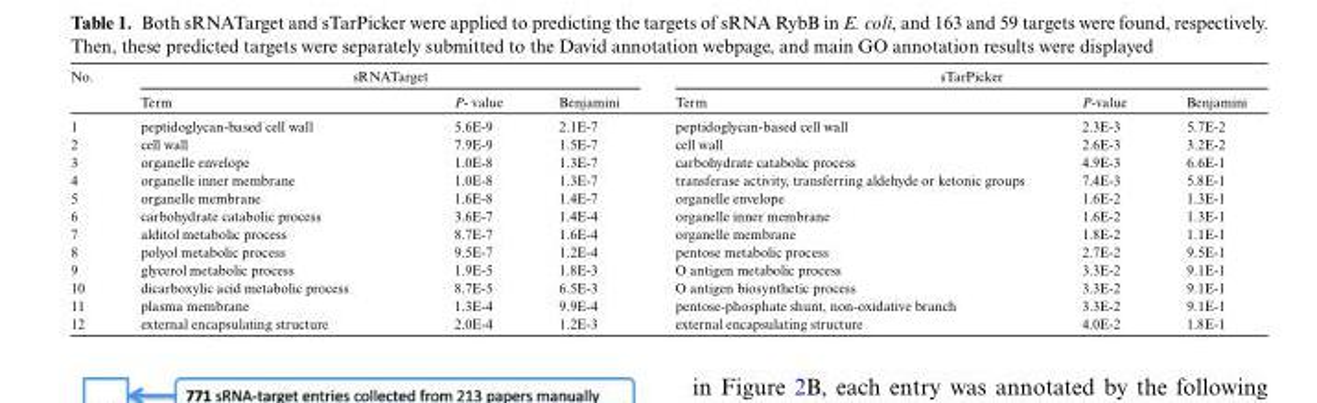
<table><thead><tr><td rowspan="2">No.</td><td colspan="3">sRNATarget</td><td colspan="3">sTarPicker</td></tr><tr><td>Term</td><td>P- value</td><td>Benjamini</td><td>Term</td><td>P-value</td><td>Benjamini</td></tr></thead><tbody><tr><td>1</td><td>peptidoglycan-based cell wall</td><td>5.6E-9</td><td>2.1E-7</td><td>peptidoglycan-based cell wall</td><td>2.3E-3</td><td>5.7E-2</td></tr><tr><td>2</td><td>cell wall</td><td>7.9E-9</td><td>1.5E-7</td><td>cell wall</td><td>2.6E-3</td><td>3.2E-2</td></tr><tr><td>3</td><td>organelle envelope</td><td>1.0E-8</td><td>1.3E-7</td><td>carbohydrate catabolic process</td><td>4.9E-3</td><td>6.6E-1</td></tr><tr><td>4</td><td>organelle inner membrane</td><td>1.0E-8</td><td>1.3E-7</td><td>transferase activity, transferring aldehyde or ketonic groups</td><td>7.4E-3</td><td>5.8E-1</td></tr><tr><td>5</td><td>organelle membrane</td><td>1.6E-8</td><td>1.4E-7</td><td>organelle envelope</td><td>1.6E-2</td><td>1.3E-1</td></tr><tr><td>6</td><td>carbohydrate catabolic process</td><td>3.6E-7</td><td>1.4E-4</td><td>organelle inner membrane</td><td>1.6E-2</td><td>1.3E-1</td></tr><tr><td>7</td><td>alditol metabolic process</td><td>8.7E-7</td><td>1.6E-4</td><td>organelle membrane</td><td>1.8E-2</td><td>1.1E-1</td></tr><tr><td>8</td><td>polyol metabolic process</td><td>9.5E-7</td><td>1.2E-4</td><td>pentose metabolic process</td><td>2.7E-2</td><td>9.5E-1</td></tr><tr><td>9</td><td>glycerol metabolic process</td><td>1.9E-5</td><td>1.8E-3</td><td>O antigen metabolic process</td><td>3.3E-2</td><td>9.1E-1</td></tr><tr><td>10</td><td>dicarboxylic acid metabolic process</td><td>8.7E-5</td><td>6.5E-3</td><td>O antigen biosynthetic process</td><td>3.3E-2</td><td>9.1E-1</td></tr><tr><td>11</td><td>plasma membrane</td><td>1.3E-4</td><td>9.9E-4</td><td>pentose-phosphate shunt, non-oxidative branch</td><td>3.3E-2</td><td>9.1E-1</td></tr><tr><td>12</td><td>external encapsulating structure</td><td>2.0E-4</td><td>1.2E-3</td><td>external encapsulating structure</td><td>4.0E-2</td><td>1.8E-1</td></tr></tbody></table>